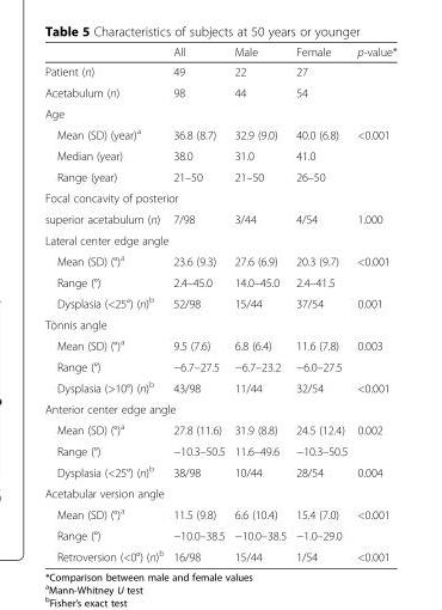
<table><thead><tr><td></td><td>All</td><td>Male</td><td>Female</td><td>p-value*</td></tr></thead><tbody><tr><td>Patient (n)</td><td>49</td><td>22</td><td>27</td><td></td></tr><tr><td>Acetabulum (n)</td><td>98</td><td>44</td><td>54</td><td></td></tr><tr><td colspan="5">Age</td></tr><tr><td>Mean (SD) (year)<sup>a</sup></td><td>36.8 (8.7)</td><td>32.9 (9.0)</td><td>40.0 (6.8)</td><td>&lt;0.001</td></tr><tr><td>Median (year)</td><td>38.0</td><td>31.0</td><td>41.0</td><td></td></tr><tr><td>Range (year)</td><td>21–50</td><td>21–50</td><td>26–50</td><td></td></tr><tr><td colspan="5">Focal concavity of posterior</td></tr><tr><td>superior acetabulum (n)</td><td>7/98</td><td>3/44</td><td>4/54</td><td>1.000</td></tr><tr><td colspan="5">Lateral center edge angle</td></tr><tr><td>Mean (SD) (°)<sup>a</sup></td><td>23.6 (9.3)</td><td>27.6 (6.9)</td><td>20.3 (9.7)</td><td>&lt;0.001</td></tr><tr><td>Range (°)</td><td>2.4–45.0</td><td>14.0–45.0</td><td>2.4–41.5</td><td></td></tr><tr><td>Dysplasia (&lt;25°) (n)<sup>b</sup></td><td>52/98</td><td>15/44</td><td>37/54</td><td>0.001</td></tr><tr><td colspan="5">Tönnis angle</td></tr><tr><td>Mean (SD) (°)<sup>a</sup></td><td>9.5 (7.6)</td><td>6.8 (6.4)</td><td>11.6 (7.8)</td><td>0.003</td></tr><tr><td>Range (°)</td><td>−6.7–27.5</td><td>−6.7–23.2</td><td>−6.0–27.5</td><td></td></tr><tr><td>Dysplasia (&gt;10°) (n)<sup>b</sup></td><td>43/98</td><td>11/44</td><td>32/54</td><td>&lt;0.001</td></tr><tr><td colspan="5">Anterior center edge angle</td></tr><tr><td>Mean (SD) (°)<sup>a</sup></td><td>27.8 (11.6)</td><td>31.9 (8.8)</td><td>24.5 (12.4)</td><td>0.002</td></tr><tr><td>Range (°)</td><td>−10.3–50.5</td><td>11.6–49.6</td><td>−10.3–50.5</td><td></td></tr><tr><td>Dysplasia (&lt;25°) (n)<sup>b</sup></td><td>38/98</td><td>10/44</td><td>28/54</td><td>0.004</td></tr><tr><td colspan="5">Acetabular version angle</td></tr><tr><td>Mean (SD) (°)<sup>a</sup></td><td>11.5 (9.8)</td><td>6.6 (10.4)</td><td>15.4 (7.0)</td><td>&lt;0.001</td></tr><tr><td>Range (°)</td><td>−10.0–38.5</td><td>−10.0–38.5</td><td>−1.0–29.0</td><td></td></tr><tr><td>Retroversion (&lt;0°) (n)<sup>b</sup></td><td>16/98</td><td>15/44</td><td>1/54</td><td>&lt;0.001</td></tr></tbody></table>